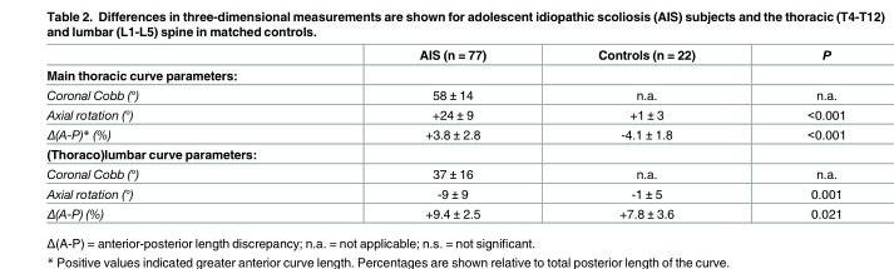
<table><thead><tr><td></td><td>AIS (n = 77)</td><td>Controls (n = 22)</td><td>P</td></tr></thead><tbody><tr><td colspan="4">Main thoracic curve parameters:</td></tr><tr><td>Coronal Cobb (°)</td><td>58 ± 14</td><td>n.a.</td><td>n.a.</td></tr><tr><td>Axial rotation (°)</td><td>+24 ± 9</td><td>+1 ± 3</td><td>&lt;0.001</td></tr><tr><td>Δ(A-P)* (%)</td><td>+3.8 ± 2.8</td><td>-4.1 ± 1.8</td><td>&lt;0.001</td></tr><tr><td colspan="4">(Thoraco)lumbar curve parameters:</td></tr><tr><td>Coronal Cobb (°)</td><td>37 ± 16</td><td>n.a.</td><td>n.a.</td></tr><tr><td>Axial rotation (°)</td><td>-9 ± 9</td><td>-1 ± 5</td><td>0.001</td></tr><tr><td>Δ(A-P) (%)</td><td>+9.4 ± 2.5</td><td>+7.8 ± 3.6</td><td>0.021</td></tr></tbody></table>